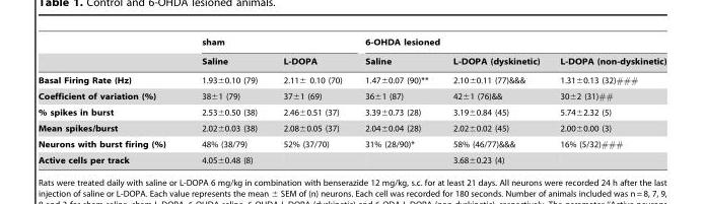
<table><thead><tr><td rowspan="2"></td><td colspan="2">sham</td><td colspan="3">6-OHDA lesioned</td></tr><tr><td>Saline</td><td>L-DOPA</td><td>Saline</td><td>L-DOPA (dyskinetic)</td><td>L-DOPA (non-dyskinetic)</td></tr></thead><tbody><tr><td>Basal Firing Rate (Hz)</td><td>1.93±0.10 (79)</td><td>2.11± 0.10 (70)</td><td>1.47±0.07 (90)**</td><td>2.10±0.11 (77)&amp;&amp;&amp;</td><td>1.31±0.13 (32)###</td></tr><tr><td>Coefficient of variation (%)</td><td>38±1 (79)</td><td>37±1 (69)</td><td>36±1 (87)</td><td>42±1 (76)&amp;&amp;</td><td>30±2 (31)##</td></tr><tr><td>% spikes in burst</td><td>2.53±0.50 (38)</td><td>2.46±0.51 (37)</td><td>3.39±0.73 (28)</td><td>3.19±0.84 (45)</td><td>5.74±2.32 (5)</td></tr><tr><td>Mean spikes/burst</td><td>2.02±0.03 (38)</td><td>2.08±0.05 (37)</td><td>2.04±0.04 (28)</td><td>2.02±0.02 (45)</td><td>2.00±0.00 (3)</td></tr><tr><td>Neurons with burst firing (%)</td><td>48% (38/79)</td><td>52% (37/70)</td><td>31% (28/90)*</td><td>58% (46/77)&amp;&amp;&amp;</td><td>16% (5/32)###</td></tr><tr><td>Active cells per track</td><td>4.05±0.48 (8)</td><td></td><td></td><td>3.68±0.23 (4)</td><td></td></tr></tbody></table>